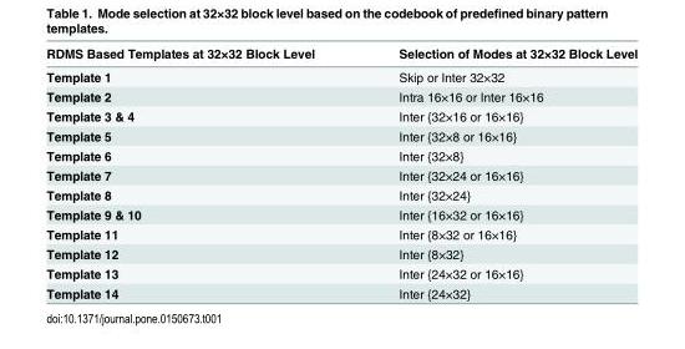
<table><thead><tr><td>RDMS Based Templates at 32×32 Block Level</td><td>Selection of Modes at 32×32 Block Level</td></tr></thead><tbody><tr><td>Template 1</td><td>Skip or Inter 32×32</td></tr><tr><td>Template 2</td><td>Intra 16×16 or Inter 16×16</td></tr><tr><td>Template 3 &amp; 4</td><td>Inter {32×16 or 16×16}</td></tr><tr><td>Template 5</td><td>Inter {32×8 or 16×16}</td></tr><tr><td>Template 6</td><td>Inter {32×8}</td></tr><tr><td>Template 7</td><td>Inter {32×24 or 16×16}</td></tr><tr><td>Template 8</td><td>Inter {32×24}</td></tr><tr><td>Template 9 &amp; 10</td><td>Inter {16×32 or 16×16}</td></tr><tr><td>Template 11</td><td>Inter {8×32 or 16×16}</td></tr><tr><td>Template 12</td><td>Inter {8×32}</td></tr><tr><td>Template 13</td><td>Inter {24×32 or 16×16}</td></tr><tr><td>Template 14</td><td>Inter {24×32}</td></tr></tbody></table>